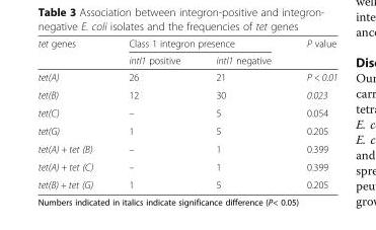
<table><thead><tr><td rowspan="2">tet genes</td><td colspan="2">Class 1 integron presence</td><td rowspan="2">P value</td></tr><tr><td>intI1 positive</td><td>intI1 negative</td></tr></thead><tbody><tr><td>tet(A)</td><td>26</td><td>21</td><td>P &lt; 0.01</td></tr><tr><td>tet(B)</td><td>12</td><td>30</td><td>0.023</td></tr><tr><td>tet(C)</td><td>–</td><td>5</td><td>0.054</td></tr><tr><td>tet(G)</td><td>1</td><td>5</td><td>0.205</td></tr><tr><td>tet(A) + tet (B)</td><td>–</td><td>1</td><td>0.399</td></tr><tr><td>tet(A) + tet (C)</td><td>–</td><td>1</td><td>0.399</td></tr><tr><td>tet(B) + tet (G)</td><td>1</td><td>5</td><td>0.205</td></tr></tbody></table>